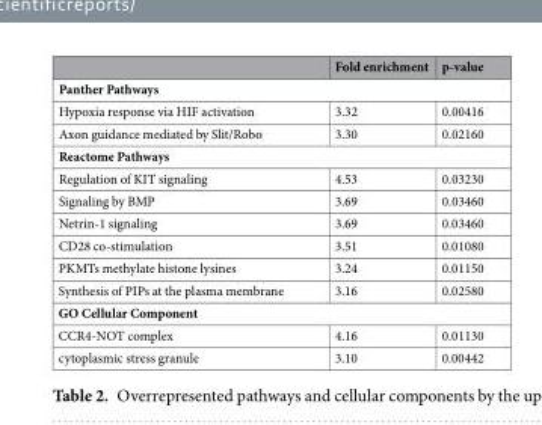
<table><thead><tr><td></td><td>Fold enrichment</td><td>p-value</td></tr></thead><tbody><tr><td colspan="3">Panther Pathways</td></tr><tr><td>Hypoxia response via HIF activation</td><td>3.32</td><td>0.00416</td></tr><tr><td>Axon guidance mediated by Slit/Robo</td><td>3.30</td><td>0.02160</td></tr><tr><td colspan="3">Reactome Pathways</td></tr><tr><td>Regulation of KIT signaling</td><td>4.53</td><td>0.03230</td></tr><tr><td>Signaling by BMP</td><td>3.69</td><td>0.03460</td></tr><tr><td>Netrin-1 signaling</td><td>3.69</td><td>0.03460</td></tr><tr><td>CD28 co-stimulation</td><td>3.51</td><td>0.01080</td></tr><tr><td>PKMTs methylate histone lysines</td><td>3.24</td><td>0.01150</td></tr><tr><td>Synthesis of PIPs at the plasma membrane</td><td>3.16</td><td>0.02580</td></tr><tr><td colspan="3">GO Cellular Component</td></tr><tr><td>CCR4-NOT complex</td><td>4.16</td><td>0.01130</td></tr><tr><td>cytoplasmic stress granule</td><td>3.10</td><td>0.00442</td></tr></tbody></table>